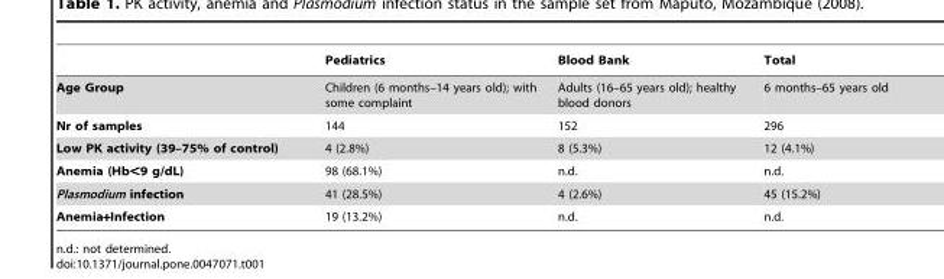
<table><thead><tr><td></td><td>Pediatrics</td><td>Blood Bank</td><td>Total</td></tr></thead><tbody><tr><td>Age Group</td><td>Children (6 months–14 years old); with some complaint</td><td>Adults (16–65 years old); healthy blood donors</td><td>6 months–65 years old</td></tr><tr><td>Nr of samples</td><td>144</td><td>152</td><td>296</td></tr><tr><td>Low PK activity (39–75% of control)</td><td>4 (2.8%)</td><td>8 (5.3%)</td><td>12 (4.1%)</td></tr><tr><td>Anemia (Hb&lt;9 g/dL)</td><td>98 (68.1%)</td><td>n.d.</td><td>n.d.</td></tr><tr><td>Plasmodium infection</td><td>41 (28.5%)</td><td>4 (2.6%)</td><td>45 (15.2%)</td></tr><tr><td>Anemia+Infection</td><td>19 (13.2%)</td><td>n.d.</td><td>n.d.</td></tr></tbody></table>